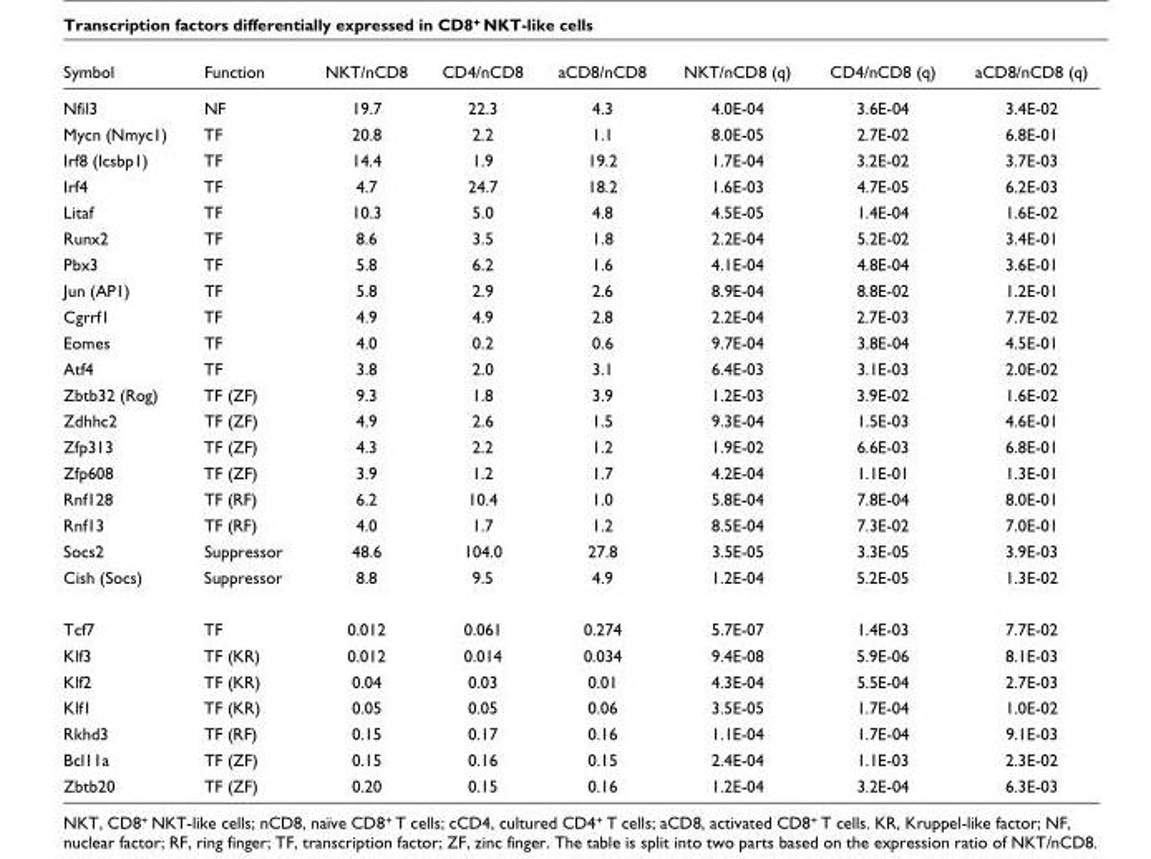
<table><thead><tr><td>Symbol</td><td>Function</td><td>NKT/nCD8</td><td>CD4/nCD8</td><td>aCD8/nCD8</td><td>NKT/nCD8 (q)</td><td>CD4/nCD8 (q)</td><td>aCD8/nCD8 (q)</td></tr></thead><tbody><tr><td>Nfil3</td><td>NF</td><td>19.7</td><td>22.3</td><td>4.3</td><td>4.0E-04</td><td>3.6E-04</td><td>3.4E-02</td></tr><tr><td>Mycn (Nmyc1)</td><td>TF</td><td>20.8</td><td>2.2</td><td>1.1</td><td>8.0E-05</td><td>2.7E-02</td><td>6.8E-01</td></tr><tr><td>Irf8 (Icsbp1)</td><td>TF</td><td>14.4</td><td>1.9</td><td>19.2</td><td>1.7E-04</td><td>3.2E-02</td><td>3.7E-03</td></tr><tr><td>Irf4</td><td>TF</td><td>4.7</td><td>24.7</td><td>18.2</td><td>1.6E-03</td><td>4.7E-05</td><td>6.2E-03</td></tr><tr><td>Litaf</td><td>TF</td><td>10.3</td><td>5.0</td><td>4.8</td><td>4.5E-05</td><td>1.4E-04</td><td>1.6E-02</td></tr><tr><td>Runx2</td><td>TF</td><td>8.6</td><td>3.5</td><td>1.8</td><td>2.2E-04</td><td>5.2E-02</td><td>3.4E-01</td></tr><tr><td>Pbx3</td><td>TF</td><td>5.8</td><td>6.2</td><td>1.6</td><td>4.1E-04</td><td>4.8E-04</td><td>3.6E-01</td></tr><tr><td>Jun (AP1)</td><td>TF</td><td>5.8</td><td>2.9</td><td>2.6</td><td>8.9E-04</td><td>8.8E-02</td><td>1.2E-01</td></tr><tr><td>Cgrrf1</td><td>TF</td><td>4.9</td><td>4.9</td><td>2.8</td><td>2.2E-04</td><td>2.7E-03</td><td>7.7E-02</td></tr><tr><td>Eomes</td><td>TF</td><td>4.0</td><td>0.2</td><td>0.6</td><td>9.7E-04</td><td>3.8E-04</td><td>4.5E-01</td></tr><tr><td>Atf4</td><td>TF</td><td>3.8</td><td>2.0</td><td>3.1</td><td>6.4E-03</td><td>3.1E-03</td><td>2.0E-02</td></tr><tr><td>Zbtb32 (Rog)</td><td>TF (ZF)</td><td>9.3</td><td>1.8</td><td>3.9</td><td>1.2E-03</td><td>3.9E-02</td><td>1.6E-02</td></tr><tr><td>Zdhhc2</td><td>TF (ZF)</td><td>4.9</td><td>2.6</td><td>1.5</td><td>9.3E-04</td><td>1.5E-03</td><td>4.6E-01</td></tr><tr><td>Zfp313</td><td>TF (ZF)</td><td>4.3</td><td>2.2</td><td>1.2</td><td>1.9E-02</td><td>6.6E-03</td><td>6.8E-01</td></tr><tr><td>Zfp608</td><td>TF (ZF)</td><td>3.9</td><td>1.2</td><td>1.7</td><td>4.2E-04</td><td>1.1E-01</td><td>1.3E-01</td></tr><tr><td>Rnf128</td><td>TF (RF)</td><td>6.2</td><td>10.4</td><td>1.0</td><td>5.8E-04</td><td>7.8E-04</td><td>8.0E-01</td></tr><tr><td>Rnf13</td><td>TF (RF)</td><td>4.0</td><td>1.7</td><td>1.2</td><td>8.5E-04</td><td>7.3E-02</td><td>7.0E-01</td></tr><tr><td>Socs2</td><td>Suppressor</td><td>48.6</td><td>104.0</td><td>27.8</td><td>3.5E-05</td><td>3.3E-05</td><td>3.9E-03</td></tr><tr><td>Cish (Socs)</td><td>Suppressor</td><td>8.8</td><td>9.5</td><td>4.9</td><td>1.2E-04</td><td>5.2E-05</td><td>1.3E-02</td></tr><tr><td>Tcf7</td><td>TF</td><td>0.012</td><td>0.061</td><td>0.274</td><td>5.7E-07</td><td>1.4E-03</td><td>7.7E-02</td></tr><tr><td>Klf3</td><td>TF (KR)</td><td>0.012</td><td>0.014</td><td>0.034</td><td>9.4E-08</td><td>5.9E-06</td><td>8.1E-03</td></tr><tr><td>Klf2</td><td>TF (KR)</td><td>0.04</td><td>0.03</td><td>0.01</td><td>4.3E-04</td><td>5.5E-04</td><td>2.7E-03</td></tr><tr><td>Klf1</td><td>TF (KR)</td><td>0.05</td><td>0.05</td><td>0.06</td><td>3.5E-05</td><td>1.7E-04</td><td>1.0E-02</td></tr><tr><td>Rkhd3</td><td>TF (RF)</td><td>0.15</td><td>0.17</td><td>0.16</td><td>1.1E-04</td><td>1.7E-04</td><td>9.1E-03</td></tr><tr><td>Bcl11a</td><td>TF (ZF)</td><td>0.15</td><td>0.16</td><td>0.15</td><td>2.4E-04</td><td>1.1E-03</td><td>2.3E-02</td></tr><tr><td>Zbtb20</td><td>TF (ZF)</td><td>0.20</td><td>0.15</td><td>0.16</td><td>1.2E-04</td><td>3.2E-04</td><td>6.3E-03</td></tr></tbody></table>